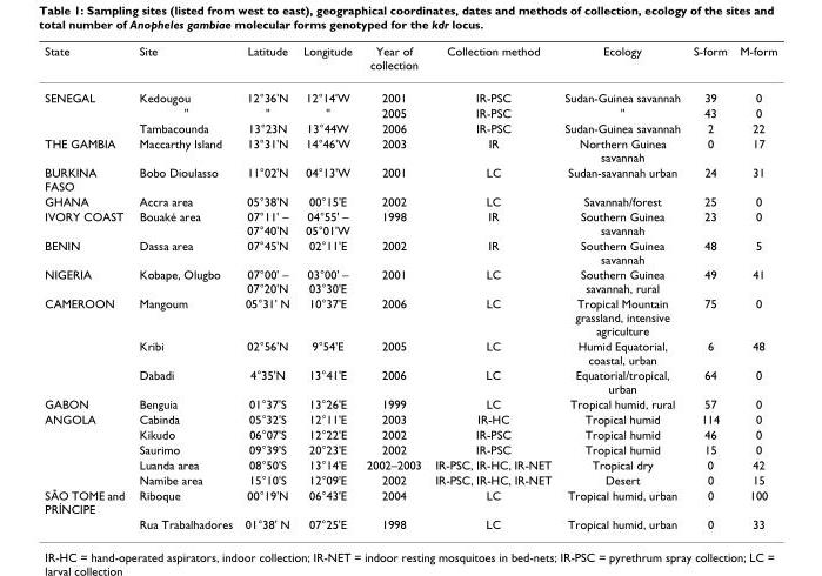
<table><thead><tr><td>State</td><td>Site</td><td>Latitude</td><td>Longitude</td><td>Year of collection</td><td>Collection method</td><td>Ecology</td><td>S-form</td><td>M-form</td></tr></thead><tbody><tr><td rowspan="3">SENEGAL</td><td>Kedougou</td><td>12°36&#x27;N</td><td>12°14&#x27;W</td><td>2001</td><td>IR-PSC</td><td>Sudan-Guinea savannah</td><td>39</td><td>0</td></tr><tr><td>&quot;</td><td>&quot;</td><td>&quot;</td><td>2005</td><td>IR-PSC</td><td>&quot;</td><td>43</td><td>0</td></tr><tr><td>Tambacounda</td><td>13°23N</td><td>13°44W</td><td>2006</td><td>IR-PSC</td><td>Sudan-Guinea savannah</td><td>2</td><td>22</td></tr><tr><td>THE GAMBIA</td><td>Maccarthy Island</td><td>13°31&#x27;N</td><td>14°46&#x27;W</td><td>2003</td><td>IR</td><td>Northern Guinea savannah</td><td>0</td><td>17</td></tr><tr><td>BURKINA FASO</td><td>Bobo Dioulasso</td><td>11°02&#x27;N</td><td>04°13&#x27;W</td><td>2001</td><td>LC</td><td>Sudan-savannah urban</td><td>24</td><td>31</td></tr><tr><td>GHANA</td><td>Accra area</td><td>05°38&#x27;N</td><td>00°15&#x27;E</td><td>2002</td><td>LC</td><td>Savannah/forest</td><td>25</td><td>0</td></tr><tr><td>IVORY COAST</td><td>Bouaké area</td><td>07°11&#x27; – 07°40&#x27;N</td><td>04°55&#x27; – 05°01&#x27;W</td><td>1998</td><td>IR</td><td>Southern Guinea savannah</td><td>23</td><td>0</td></tr><tr><td>BENIN</td><td>Dassa area</td><td>07°45&#x27;N</td><td>02°11&#x27;E</td><td>2002</td><td>IR</td><td>Southern Guinea savannah</td><td>48</td><td>5</td></tr><tr><td>NIGERIA</td><td>Kobape, Olugbo</td><td>07°00&#x27; – 07°20&#x27;N</td><td>03°00&#x27; – 03°30&#x27;E</td><td>2001</td><td>LC</td><td>Southern Guinea savannah, rural</td><td>49</td><td>41</td></tr><tr><td rowspan="3">CAMEROON</td><td>Mangoum</td><td>05°31&#x27; N</td><td>10°37&#x27;E</td><td>2006</td><td>LC</td><td>Tropical Mountain grassland, intensive agriculture</td><td>75</td><td>0</td></tr><tr><td>Kribi</td><td>02°56&#x27;N</td><td>9°54&#x27;E</td><td>2005</td><td>LC</td><td>Humid Equatorial, coastal, urban</td><td>6</td><td>48</td></tr><tr><td>Dabadi</td><td>4°35&#x27;N</td><td>13°41&#x27;E</td><td>2006</td><td>LC</td><td>Equatorial/tropical, urban</td><td>64</td><td>0</td></tr><tr><td>GABON</td><td>Benguia</td><td>01°37&#x27;S</td><td>13°26&#x27;E</td><td>1999</td><td>LC</td><td>Tropical humid, rural</td><td>57</td><td>0</td></tr><tr><td rowspan="5">ANGOLA</td><td>Cabinda</td><td>05°32&#x27;S</td><td>12°11&#x27;E</td><td>2003</td><td>IR-HC</td><td>Tropical humid</td><td>114</td><td>0</td></tr><tr><td>Kikudo</td><td>06°07&#x27;S</td><td>12°22&#x27;E</td><td>2002</td><td>IR-PSC</td><td>Tropical humid</td><td>46</td><td>0</td></tr><tr><td>Saurimo</td><td>09°39&#x27;S</td><td>20°23&#x27;E</td><td>2002</td><td>IR-PSC</td><td>Tropical humid</td><td>15</td><td>0</td></tr><tr><td>Luanda area</td><td>08°50&#x27;S</td><td>13°14&#x27;E</td><td>2002–2003</td><td>IR-PSC, IR-HC, IR-NET</td><td>Tropical dry</td><td>0</td><td>42</td></tr><tr><td>Namibe area</td><td>15°10&#x27;S</td><td>12°09&#x27;E</td><td>2002</td><td>IR-PSC, IR-HC, IR-NET</td><td>Desert</td><td>0</td><td>15</td></tr><tr><td rowspan="2">SÃO TOME and PRÍNCIPE</td><td>Riboque</td><td>00°19&#x27;N</td><td>06°43&#x27;E</td><td>2004</td><td>LC</td><td>Tropical humid, urban</td><td>0</td><td>100</td></tr><tr><td>Rua Trabalhadores</td><td>01°38&#x27; N</td><td>07°25&#x27;E</td><td>1998</td><td>LC</td><td>Tropical humid, urban</td><td>0</td><td>33</td></tr></tbody></table>